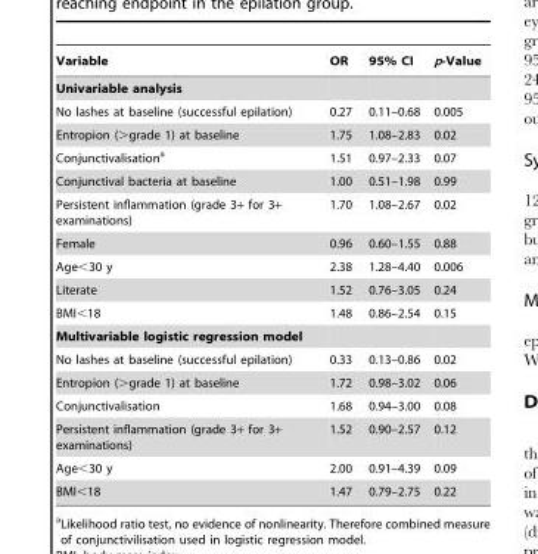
<table><thead><tr><td>Variable</td><td>OR</td><td>95% CI</td><td>p-Value</td></tr></thead><tbody><tr><td colspan="4">Univariable analysis</td></tr><tr><td>No lashes at baseline (successful epilation)</td><td>0.27</td><td>0.11–0.68</td><td>0.005</td></tr><tr><td>Entropion (&gt;grade 1) at baseline</td><td>1.75</td><td>1.08–2.83</td><td>0.02</td></tr><tr><td>Conjunctivalisation<sup>a</sup></td><td>1.51</td><td>0.97–2.33</td><td>0.07</td></tr><tr><td>Conjunctival bacteria at baseline</td><td>1.00</td><td>0.51–1.98</td><td>0.99</td></tr><tr><td>Persistent inflammation (grade 3+ for 3+ examinations)</td><td>1.70</td><td>1.08–2.67</td><td>0.02</td></tr><tr><td>Female</td><td>0.96</td><td>0.60–1.55</td><td>0.88</td></tr><tr><td>Age&lt;30 y</td><td>2.38</td><td>1.28–4.40</td><td>0.006</td></tr><tr><td>Literate</td><td>1.52</td><td>0.76–3.05</td><td>0.24</td></tr><tr><td>BMI&lt;18</td><td>1.48</td><td>0.86–2.54</td><td>0.15</td></tr><tr><td colspan="4">Multivariable logistic regression model</td></tr><tr><td>No lashes at baseline (successful epilation)</td><td>0.33</td><td>0.13–0.86</td><td>0.02</td></tr><tr><td>Entropion (&gt;grade 1) at baseline</td><td>1.72</td><td>0.98–3.02</td><td>0.06</td></tr><tr><td>Conjunctivalisation</td><td>1.68</td><td>0.94–3.00</td><td>0.08</td></tr><tr><td>Persistent inflammation (grade 3+ for 3+ examinations)</td><td>1.52</td><td>0.90–2.57</td><td>0.12</td></tr><tr><td>Age&lt;30 y</td><td>2.00</td><td>0.91–4.39</td><td>0.09</td></tr><tr><td>BMI&lt;18</td><td>1.47</td><td>0.79–2.75</td><td>0.22</td></tr></tbody></table>